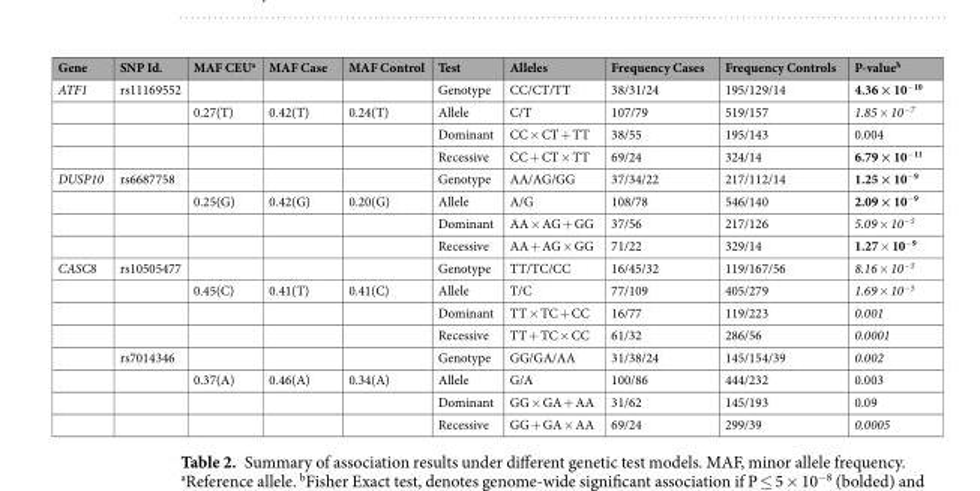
<table><thead><tr><td>Gene</td><td>SNP Id.</td><td>MAF CEU<sup>a</sup></td><td>MAF Case</td><td>MAF Control</td><td>Test</td><td>Alleles</td><td>Frequency Cases</td><td>Frequency Controls</td><td>P-value<sup>b</sup></td></tr></thead><tbody><tr><td rowspan="4">ATF1</td><td>rs11169552</td><td></td><td></td><td></td><td>Genotype</td><td>CC/CT/TT</td><td>38/31/24</td><td>195/129/14</td><td>4.36 × 10<sup>−10</sup></td></tr><tr><td></td><td>0.27(T)</td><td>0.42(T)</td><td>0.24(T)</td><td>Allele</td><td>C/T</td><td>107/79</td><td>519/157</td><td>1.85 × 10<sup>−7</sup></td></tr><tr><td></td><td></td><td></td><td></td><td>Dominant</td><td>CC × CT + TT</td><td>38/55</td><td>195/143</td><td>0.004</td></tr><tr><td></td><td></td><td></td><td></td><td>Recessive</td><td>CC + CT × TT</td><td>69/24</td><td>324/14</td><td>6.79 × 10<sup>−11</sup></td></tr><tr><td rowspan="4">DUSP10</td><td>rs6687758</td><td></td><td></td><td></td><td>Genotype</td><td>AA/AG/GG</td><td>37/34/22</td><td>217/112/14</td><td>1.25 × 10<sup>−9</sup></td></tr><tr><td></td><td>0.25(G)</td><td>0.42(G)</td><td>0.20(G)</td><td>Allele</td><td>A/G</td><td>108/78</td><td>546/140</td><td>2.09 × 10<sup>−9</sup></td></tr><tr><td></td><td></td><td></td><td></td><td>Dominant</td><td>AA × AG + GG</td><td>37/56</td><td>217/126</td><td>5.09 × 10<sup>−5</sup></td></tr><tr><td></td><td></td><td></td><td></td><td>Recessive</td><td>AA + AG × GG</td><td>71/22</td><td>329/14</td><td>1.27 × 10<sup>−9</sup></td></tr><tr><td rowspan="8">CASC8</td><td>rs10505477</td><td></td><td></td><td></td><td>Genotype</td><td>TT/TC/CC</td><td>16/45/32</td><td>119/167/56</td><td>8.16 × 10<sup>−5</sup></td></tr><tr><td></td><td>0.45(C)</td><td>0.41(T)</td><td>0.41(C)</td><td>Allele</td><td>T/C</td><td>77/109</td><td>405/279</td><td>1.69 × 10<sup>−5</sup></td></tr><tr><td></td><td></td><td></td><td></td><td>Dominant</td><td>TT × TC + CC</td><td>16/77</td><td>119/223</td><td>0.001</td></tr><tr><td></td><td></td><td></td><td></td><td>Recessive</td><td>TT + TC × CC</td><td>61/32</td><td>286/56</td><td>0.0001</td></tr><tr><td>rs7014346</td><td></td><td></td><td></td><td>Genotype</td><td>GG/GA/AA</td><td>31/38/24</td><td>145/154/39</td><td>0.002</td></tr><tr><td></td><td>0.37(A)</td><td>0.46(A)</td><td>0.34(A)</td><td>Allele</td><td>G/A</td><td>100/86</td><td>444/232</td><td>0.003</td></tr><tr><td></td><td></td><td></td><td></td><td>Dominant</td><td>GG × GA + AA</td><td>31/62</td><td>145/193</td><td>0.09</td></tr><tr><td></td><td></td><td></td><td></td><td>Recessive</td><td>GG + GA × AA</td><td>69/24</td><td>299/39</td><td>0.0005</td></tr></tbody></table>